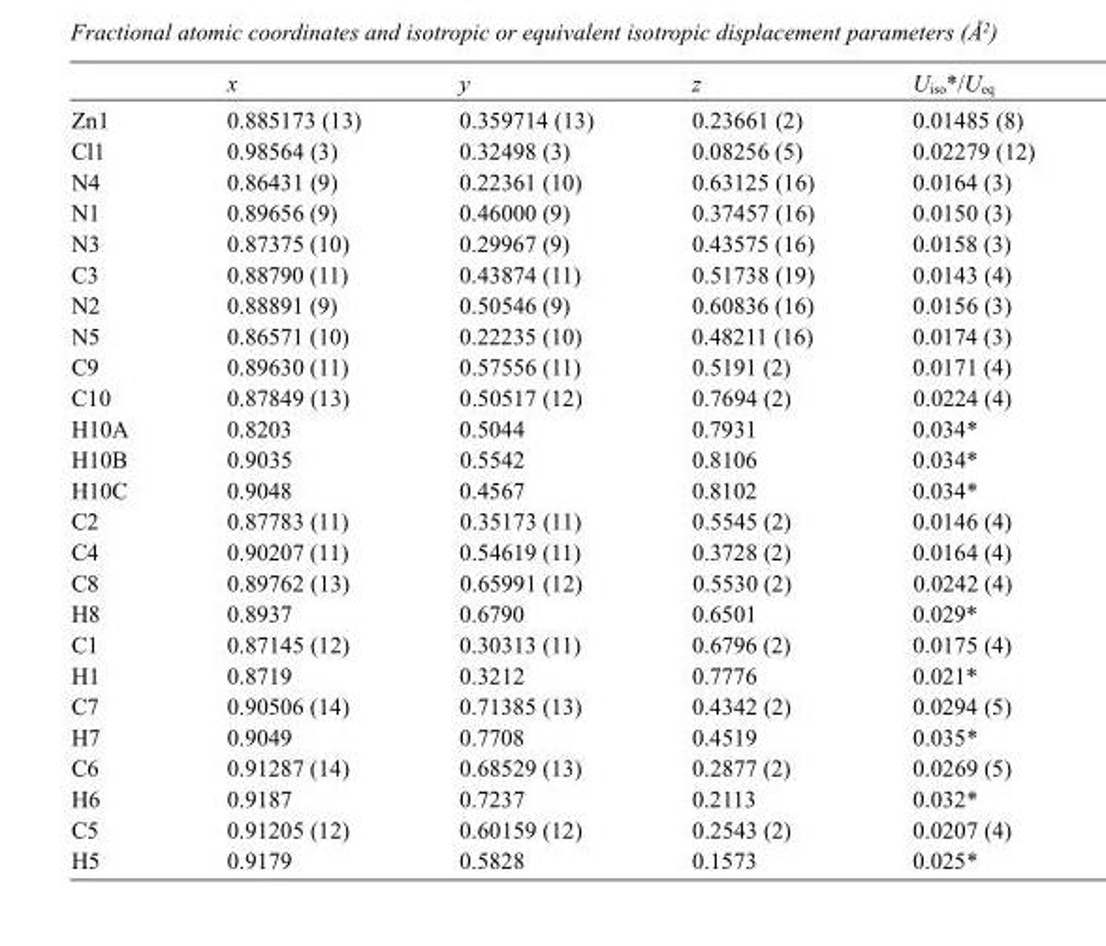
<table><thead><tr><td></td><td>x</td><td>y</td><td>z</td><td>U<sub>iso</sub>*/U<sub>eq</sub></td></tr></thead><tbody><tr><td>Zn1</td><td>0.885173 (13)</td><td>0.359714 (13)</td><td>0.23661 (2)</td><td>0.01485 (8)</td></tr><tr><td>Cl1</td><td>0.98564 (3)</td><td>0.32498 (3)</td><td>0.08256 (5)</td><td>0.02279 (12)</td></tr><tr><td>N4</td><td>0.86431 (9)</td><td>0.22361 (10)</td><td>0.63125 (16)</td><td>0.0164 (3)</td></tr><tr><td>N1</td><td>0.89656 (9)</td><td>0.46000 (9)</td><td>0.37457 (16)</td><td>0.0150 (3)</td></tr><tr><td>N3</td><td>0.87375 (10)</td><td>0.29967 (9)</td><td>0.43575 (16)</td><td>0.0158 (3)</td></tr><tr><td>C3</td><td>0.88790 (11)</td><td>0.43874 (11)</td><td>0.51738 (19)</td><td>0.0143 (4)</td></tr><tr><td>N2</td><td>0.88891 (9)</td><td>0.50546 (9)</td><td>0.60836 (16)</td><td>0.0156 (3)</td></tr><tr><td>N5</td><td>0.86571 (10)</td><td>0.22235 (10)</td><td>0.48211 (16)</td><td>0.0174 (3)</td></tr><tr><td>C9</td><td>0.89630 (11)</td><td>0.57556 (11)</td><td>0.5191 (2)</td><td>0.0171 (4)</td></tr><tr><td>C10</td><td>0.87849 (13)</td><td>0.50517 (12)</td><td>0.7694 (2)</td><td>0.0224 (4)</td></tr><tr><td>H10A</td><td>0.8203</td><td>0.5044</td><td>0.7931</td><td>0.034*</td></tr><tr><td>H10B</td><td>0.9035</td><td>0.5542</td><td>0.8106</td><td>0.034*</td></tr><tr><td>H10C</td><td>0.9048</td><td>0.4567</td><td>0.8102</td><td>0.034*</td></tr><tr><td>C2</td><td>0.87783 (11)</td><td>0.35173 (11)</td><td>0.5545 (2)</td><td>0.0146 (4)</td></tr><tr><td>C4</td><td>0.90207 (11)</td><td>0.54619 (11)</td><td>0.3728 (2)</td><td>0.0164 (4)</td></tr><tr><td>C8</td><td>0.89762 (13)</td><td>0.65991 (12)</td><td>0.5530 (2)</td><td>0.0242 (4)</td></tr><tr><td>H8</td><td>0.8937</td><td>0.6790</td><td>0.6501</td><td>0.029*</td></tr><tr><td>C1</td><td>0.87145 (12)</td><td>0.30313 (11)</td><td>0.6796 (2)</td><td>0.0175 (4)</td></tr><tr><td>H1</td><td>0.8719</td><td>0.3212</td><td>0.7776</td><td>0.021*</td></tr><tr><td>C7</td><td>0.90506 (14)</td><td>0.71385 (13)</td><td>0.4342 (2)</td><td>0.0294 (5)</td></tr><tr><td>H7</td><td>0.9049</td><td>0.7708</td><td>0.4519</td><td>0.035*</td></tr><tr><td>C6</td><td>0.91287 (14)</td><td>0.68529 (13)</td><td>0.2877 (2)</td><td>0.0269 (5)</td></tr><tr><td>H6</td><td>0.9187</td><td>0.7237</td><td>0.2113</td><td>0.032*</td></tr><tr><td>C5</td><td>0.91205 (12)</td><td>0.60159 (12)</td><td>0.2543 (2)</td><td>0.0207 (4)</td></tr><tr><td>H5</td><td>0.9179</td><td>0.5828</td><td>0.1573</td><td>0.025*</td></tr></tbody></table>